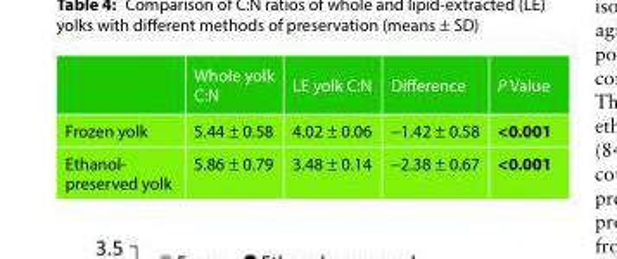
<table><thead><tr><td></td><td>Whole yolk C:N</td><td>LE yolk C:N</td><td>Difference</td><td>P Value</td></tr></thead><tbody><tr><td>Frozen yolk</td><td>5.44 ± 0.58</td><td>4.02 ± 0.06</td><td>−1.42 ± 0.58</td><td>&lt;0.001</td></tr><tr><td>Ethanol- preserved yolk</td><td>5.86 ± 0.79</td><td>3.48 ± 0.14</td><td>−2.38 ± 0.67</td><td>&lt;0.001</td></tr></tbody></table>